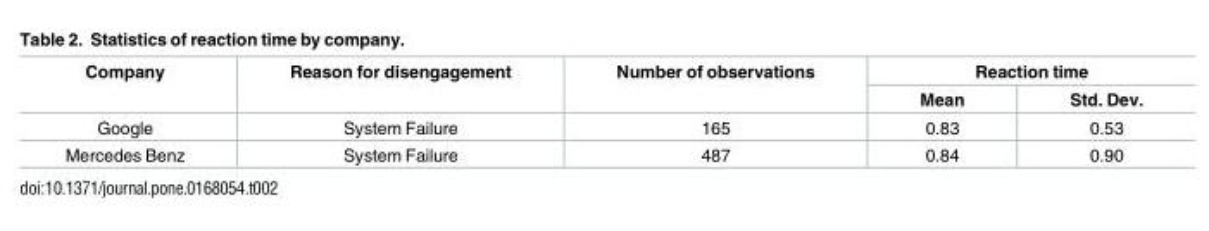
<table><thead><tr><td rowspan="2">Company</td><td rowspan="2">Reason for disengagement</td><td rowspan="2">Number of observations</td><td colspan="2">Reaction time</td></tr><tr><td>Mean</td><td>Std. Dev.</td></tr></thead><tbody><tr><td>Google</td><td>System Failure</td><td>165</td><td>0.83</td><td>0.53</td></tr><tr><td>Mercedes Benz</td><td>System Failure</td><td>487</td><td>0.84</td><td>0.90</td></tr></tbody></table>